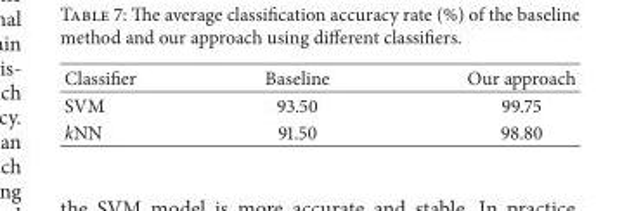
<table><thead><tr><td>Classifier</td><td>Baseline</td><td>Our approach</td></tr></thead><tbody><tr><td>SVM</td><td>93.50</td><td>99.75</td></tr><tr><td>kNN</td><td>91.50</td><td>98.80</td></tr></tbody></table>